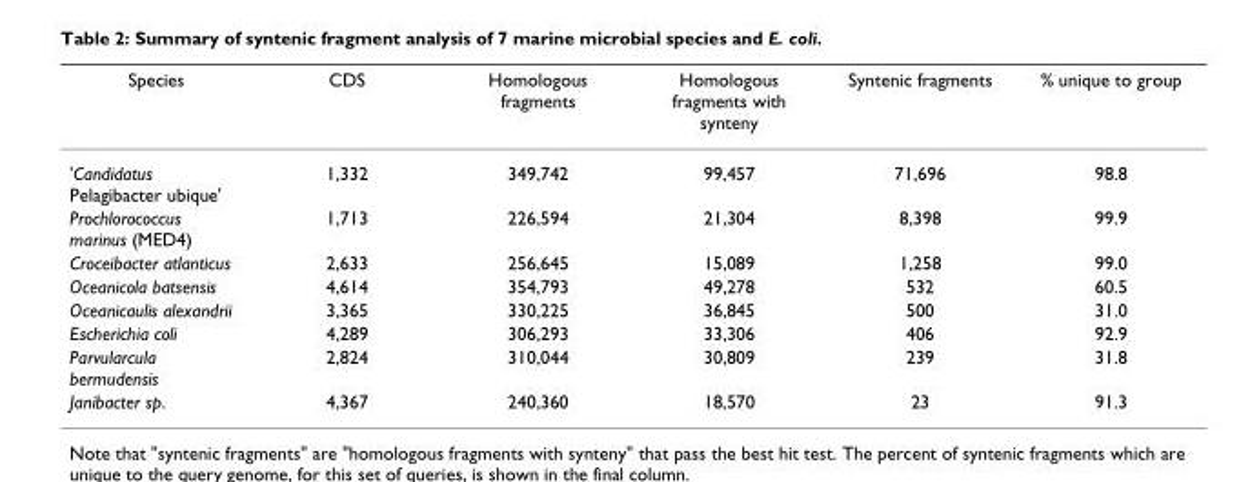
<table><thead><tr><td>Species</td><td>CDS</td><td>Homologous fragments</td><td>Homologous fragments with synteny</td><td>Syntenic fragments</td><td>% unique to group</td></tr></thead><tbody><tr><td>&#x27;Candidatus Pelagibacter ubique&#x27;</td><td>1,332</td><td>349,742</td><td>99,457</td><td>71,696</td><td>98.8</td></tr><tr><td>Prochlorococcus marinus (MED4)</td><td>1,713</td><td>226,594</td><td>21,304</td><td>8,398</td><td>99.9</td></tr><tr><td>Croceibacter atlanticus</td><td>2,633</td><td>256,645</td><td>15,089</td><td>1,258</td><td>99.0</td></tr><tr><td>Oceanicola batsensis</td><td>4,614</td><td>354,793</td><td>49,278</td><td>532</td><td>60.5</td></tr><tr><td>Oceanicaulis alexandrii</td><td>3,365</td><td>330,225</td><td>36,845</td><td>500</td><td>31.0</td></tr><tr><td>Escherichia coli</td><td>4,289</td><td>306,293</td><td>33,306</td><td>406</td><td>92.9</td></tr><tr><td>Parvularcula bermudensis</td><td>2,824</td><td>310,044</td><td>30,809</td><td>239</td><td>31.8</td></tr><tr><td>Janibacter sp.</td><td>4,367</td><td>240,360</td><td>18,570</td><td>23</td><td>91.3</td></tr></tbody></table>